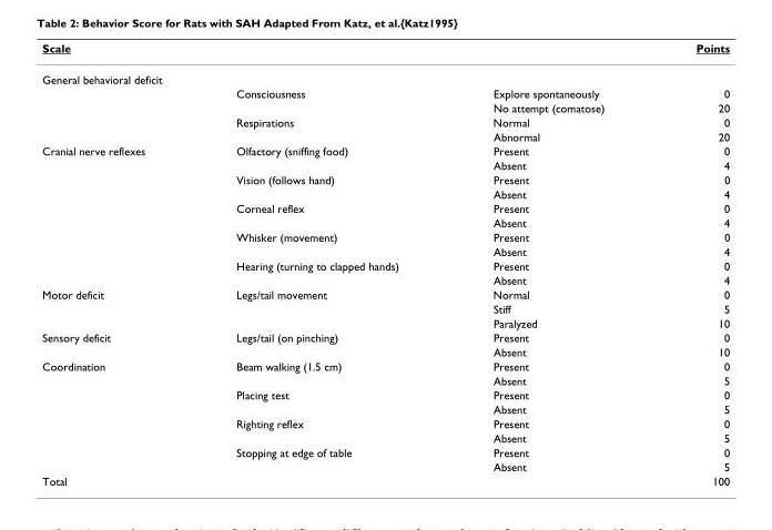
<table><thead><tr><td>Scale</td><td></td><td></td><td>Points</td></tr></thead><tbody><tr><td colspan="4">General behavioral deficit</td></tr><tr><td></td><td>Consciousness</td><td>Explore spontaneously</td><td>0</td></tr><tr><td></td><td></td><td>No attempt (comatose)</td><td>20</td></tr><tr><td></td><td>Respirations</td><td>Normal</td><td>0</td></tr><tr><td></td><td></td><td>Abnormal</td><td>20</td></tr><tr><td rowspan="10">Cranial nerve reflexes</td><td>Olfactory (sniffing food)</td><td>Present</td><td>0</td></tr><tr><td></td><td>Absent</td><td>4</td></tr><tr><td>Vision (follows hand)</td><td>Present</td><td>0</td></tr><tr><td></td><td>Absent</td><td>4</td></tr><tr><td>Corneal reflex</td><td>Present</td><td>0</td></tr><tr><td></td><td>Absent</td><td>4</td></tr><tr><td>Whisker (movement)</td><td>Present</td><td>0</td></tr><tr><td></td><td>Absent</td><td>4</td></tr><tr><td>Hearing (turning to clapped hands)</td><td>Present</td><td>0</td></tr><tr><td></td><td>Absent</td><td>4</td></tr><tr><td rowspan="3">Motor deficit</td><td>Legs/tail movement</td><td>Normal</td><td>0</td></tr><tr><td></td><td>Stiff</td><td>5</td></tr><tr><td></td><td>Paralyzed</td><td>10</td></tr><tr><td rowspan="2">Sensory deficit</td><td>Legs/tail (on pinching)</td><td>Present</td><td>0</td></tr><tr><td></td><td>Absent</td><td>10</td></tr><tr><td rowspan="8">Coordination</td><td>Beam walking (1.5 cm)</td><td>Present</td><td>0</td></tr><tr><td></td><td>Absent</td><td>5</td></tr><tr><td>Placing test</td><td>Present</td><td>0</td></tr><tr><td></td><td>Absent</td><td>5</td></tr><tr><td>Righting reflex</td><td>Present</td><td>0</td></tr><tr><td></td><td>Absent</td><td>5</td></tr><tr><td>Stopping at edge of table</td><td>Present</td><td>0</td></tr><tr><td></td><td>Absent</td><td>5</td></tr><tr><td>Total</td><td></td><td></td><td>100</td></tr></tbody></table>